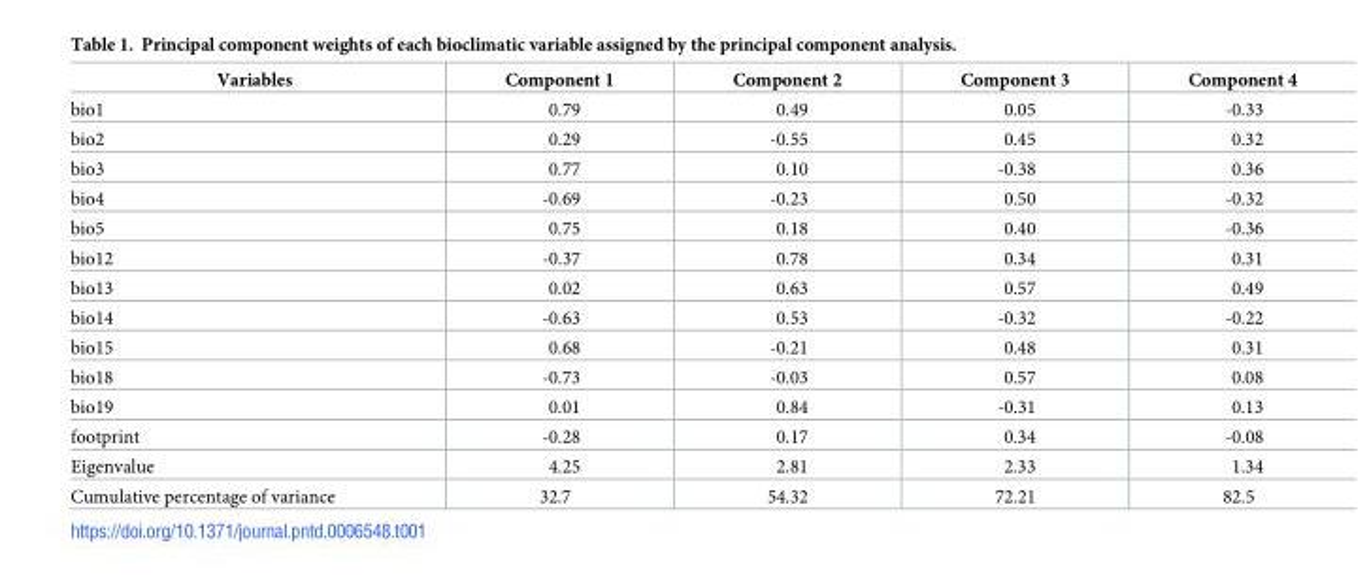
<table><thead><tr><td>Variables</td><td>Component 1</td><td>Component 2</td><td>Component 3</td><td>Component 4</td></tr></thead><tbody><tr><td>bio1</td><td>0.79</td><td>0.49</td><td>0.05</td><td>-0.33</td></tr><tr><td>bio2</td><td>0.29</td><td>-0.55</td><td>0.45</td><td>0.32</td></tr><tr><td>bio3</td><td>0.77</td><td>0.10</td><td>-0.38</td><td>0.36</td></tr><tr><td>bio4</td><td>-0.69</td><td>-0.23</td><td>0.50</td><td>-0.32</td></tr><tr><td>bio5</td><td>0.75</td><td>0.18</td><td>0.40</td><td>-0.36</td></tr><tr><td>bio12</td><td>-0.37</td><td>0.78</td><td>0.34</td><td>0.31</td></tr><tr><td>bio13</td><td>0.02</td><td>0.63</td><td>0.57</td><td>0.49</td></tr><tr><td>bio14</td><td>-0.63</td><td>0.53</td><td>-0.32</td><td>-0.22</td></tr><tr><td>bio15</td><td>0.68</td><td>-0.21</td><td>0.48</td><td>0.31</td></tr><tr><td>bio18</td><td>-0.73</td><td>-0.03</td><td>0.57</td><td>0.08</td></tr><tr><td>bio19</td><td>0.01</td><td>0.84</td><td>-0.31</td><td>0.13</td></tr><tr><td>footprint</td><td>-0.28</td><td>0.17</td><td>0.34</td><td>-0.08</td></tr><tr><td>Eigenvalue</td><td>4.25</td><td>2.81</td><td>2.33</td><td>1.34</td></tr><tr><td>Cumulative percentage of variance</td><td>32.7</td><td>54.32</td><td>72.21</td><td>82.5</td></tr></tbody></table>